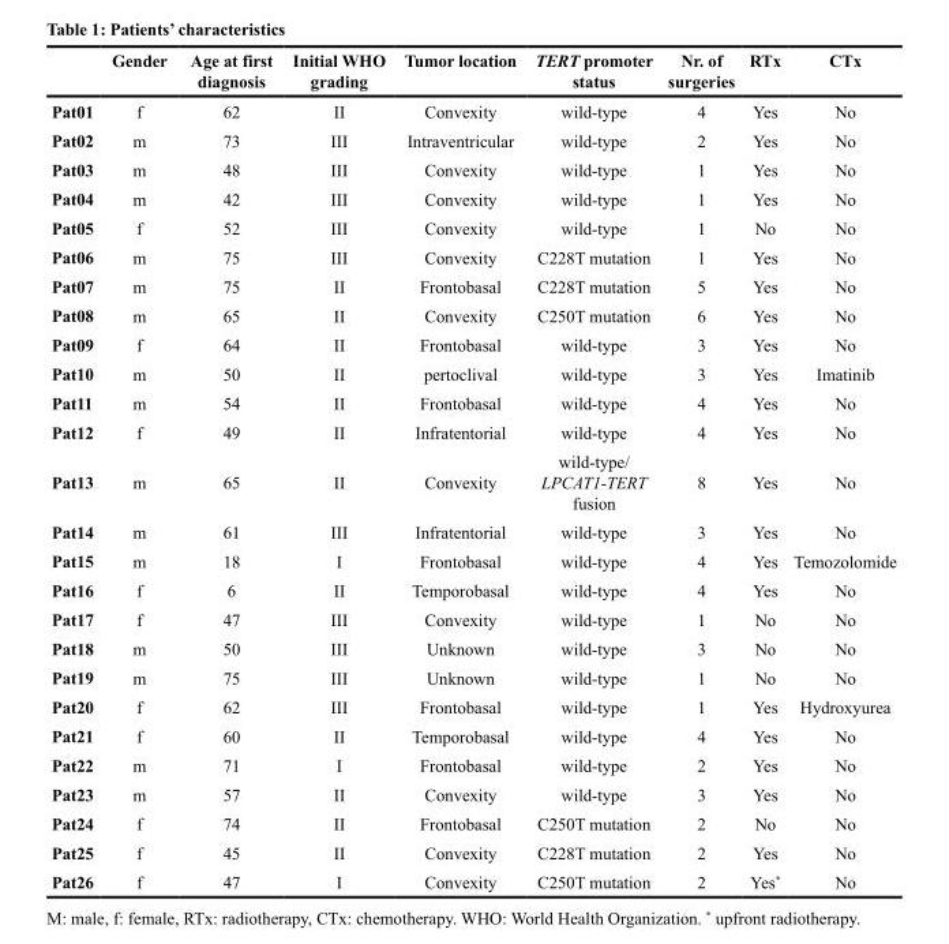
<table><thead><tr><td></td><td>Gender</td><td>Age at first diagnosis</td><td>Initial WHO grading</td><td>Tumor location</td><td>TERT promoter status</td><td>Nr. of surgeries</td><td>RTx</td><td>CTx</td></tr></thead><tbody><tr><td>Pat01</td><td>f</td><td>62</td><td>II</td><td>Convexity</td><td>wild-type</td><td>4</td><td>Yes</td><td>No</td></tr><tr><td>Pat02</td><td>m</td><td>73</td><td>III</td><td>Intraventricular</td><td>wild-type</td><td>2</td><td>Yes</td><td>No</td></tr><tr><td>Pat03</td><td>m</td><td>48</td><td>III</td><td>Convexity</td><td>wild-type</td><td>1</td><td>Yes</td><td>No</td></tr><tr><td>Pat04</td><td>m</td><td>42</td><td>III</td><td>Convexity</td><td>wild-type</td><td>1</td><td>Yes</td><td>No</td></tr><tr><td>Pat05</td><td>f</td><td>52</td><td>III</td><td>Convexity</td><td>wild-type</td><td>1</td><td>No</td><td>No</td></tr><tr><td>Pat06</td><td>m</td><td>75</td><td>III</td><td>Convexity</td><td>C228T mutation</td><td>1</td><td>Yes</td><td>No</td></tr><tr><td>Pat07</td><td>m</td><td>75</td><td>II</td><td>Frontobasal</td><td>C228T mutation</td><td>5</td><td>Yes</td><td>No</td></tr><tr><td>Pat08</td><td>m</td><td>65</td><td>II</td><td>Convexity</td><td>C250T mutation</td><td>6</td><td>Yes</td><td>No</td></tr><tr><td>Pat09</td><td>f</td><td>64</td><td>II</td><td>Frontobasal</td><td>wild-type</td><td>3</td><td>Yes</td><td>No</td></tr><tr><td>Pat10</td><td>m</td><td>50</td><td>II</td><td>pertoclival</td><td>wild-type</td><td>3</td><td>Yes</td><td>Imatinib</td></tr><tr><td>Pat11</td><td>m</td><td>54</td><td>II</td><td>Frontobasal</td><td>wild-type</td><td>4</td><td>Yes</td><td>No</td></tr><tr><td>Pat12</td><td>f</td><td>49</td><td>II</td><td>Infratentorial</td><td>wild-type</td><td>4</td><td>Yes</td><td>No</td></tr><tr><td>Pat13</td><td>m</td><td>65</td><td>II</td><td>Convexity</td><td>wild-type/ LPCAT1-TERT fusion</td><td>8</td><td>Yes</td><td>No</td></tr><tr><td>Pat14</td><td>m</td><td>61</td><td>III</td><td>Infratentorial</td><td>wild-type</td><td>3</td><td>Yes</td><td>No</td></tr><tr><td>Pat15</td><td>m</td><td>18</td><td>I</td><td>Frontobasal</td><td>wild-type</td><td>4</td><td>Yes</td><td>Temozolomide</td></tr><tr><td>Pat16</td><td>f</td><td>6</td><td>II</td><td>Temporobasal</td><td>wild-type</td><td>4</td><td>Yes</td><td>No</td></tr><tr><td>Pat17</td><td>f</td><td>47</td><td>III</td><td>Convexity</td><td>wild-type</td><td>1</td><td>No</td><td>No</td></tr><tr><td>Pat18</td><td>m</td><td>50</td><td>III</td><td>Unknown</td><td>wild-type</td><td>3</td><td>No</td><td>No</td></tr><tr><td>Pat19</td><td>m</td><td>75</td><td>III</td><td>Unknown</td><td>wild-type</td><td>1</td><td>No</td><td>No</td></tr><tr><td>Pat20</td><td>f</td><td>62</td><td>III</td><td>Frontobasal</td><td>wild-type</td><td>1</td><td>Yes</td><td>Hydroxyurea</td></tr><tr><td>Pat21</td><td>f</td><td>60</td><td>II</td><td>Temporobasal</td><td>wild-type</td><td>4</td><td>Yes</td><td>No</td></tr><tr><td>Pat22</td><td>m</td><td>71</td><td>I</td><td>Frontobasal</td><td>wild-type</td><td>2</td><td>Yes</td><td>No</td></tr><tr><td>Pat23</td><td>m</td><td>57</td><td>II</td><td>Convexity</td><td>wild-type</td><td>3</td><td>Yes</td><td>No</td></tr><tr><td>Pat24</td><td>f</td><td>74</td><td>II</td><td>Frontobasal</td><td>C250T mutation</td><td>2</td><td>No</td><td>No</td></tr><tr><td>Pat25</td><td>f</td><td>45</td><td>II</td><td>Convexity</td><td>C228T mutation</td><td>2</td><td>Yes</td><td>No</td></tr><tr><td>Pat26</td><td>f</td><td>47</td><td>I</td><td>Convexity</td><td>C250T mutation</td><td>2</td><td>Yes*</td><td>No</td></tr></tbody></table>